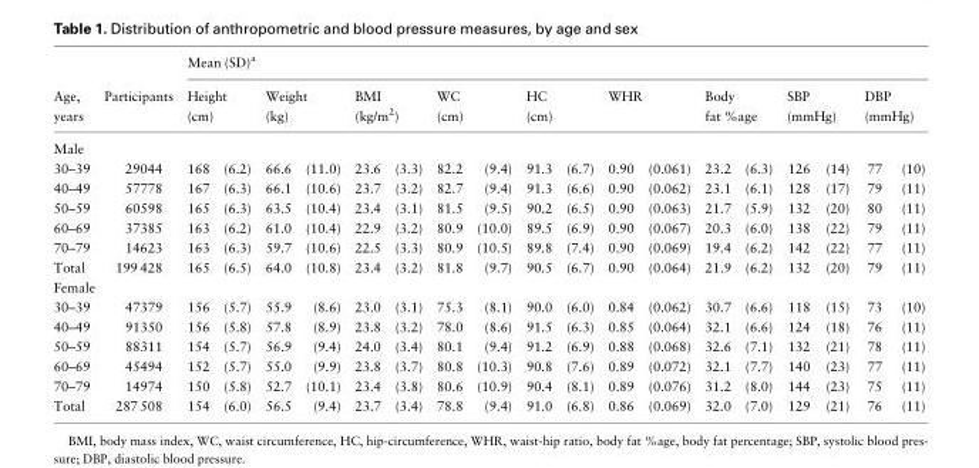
<table><thead><tr><td rowspan="2">Age, years</td><td rowspan="2">Participants</td><td colspan="18">Mean (SD)<sup>a</sup></td></tr><tr><td colspan="2">Height (cm)</td><td colspan="2">Weight (kg)</td><td colspan="2">BMI (kg/m<sup>2</sup>)</td><td colspan="2">WC (cm)</td><td colspan="2">HC (cm)</td><td colspan="2">WHR</td><td colspan="2">Body fat %age</td><td colspan="2">SBP (mmHg)</td><td colspan="2">DBP (mmHg)</td></tr><tr><td colspan="20">Male</td></tr><tr><td>30–39</td><td>29044</td><td>168</td><td>(6.2)</td><td>66.6</td><td>(11.0)</td><td>23.6</td><td>(3.3)</td><td>82.2</td><td>(9.4)</td><td>91.3</td><td>(6.7)</td><td>0.90</td><td>(0.061)</td><td>23.2</td><td>(6.3)</td><td>126</td><td>(14)</td><td>77</td><td>(10)</td></tr></thead><tbody><tr><td>40–49</td><td>57778</td><td>167</td><td>(6.3)</td><td>66.1</td><td>(10.6)</td><td>23.7</td><td>(3.2)</td><td>82.7</td><td>(9.4)</td><td>91.3</td><td>(6.6)</td><td>0.90</td><td>(0.062)</td><td>23.1</td><td>(6.1)</td><td>128</td><td>(17)</td><td>79</td><td>(11)</td></tr><tr><td>50–59</td><td>60598</td><td>165</td><td>(6.3)</td><td>63.5</td><td>(10.4)</td><td>23.4</td><td>(3.1)</td><td>81.5</td><td>(9.5)</td><td>90.2</td><td>(6.5)</td><td>0.90</td><td>(0.063)</td><td>21.7</td><td>(5.9)</td><td>132</td><td>(20)</td><td>80</td><td>(11)</td></tr><tr><td>60–69</td><td>37385</td><td>163</td><td>(6.2)</td><td>61.0</td><td>(10.4)</td><td>22.9</td><td>(3.2)</td><td>80.9</td><td>(10.0)</td><td>89.5</td><td>(6.9)</td><td>0.90</td><td>(0.067)</td><td>20.3</td><td>(6.0)</td><td>138</td><td>(22)</td><td>79</td><td>(11)</td></tr><tr><td>70–79</td><td>14623</td><td>163</td><td>(6.3)</td><td>59.7</td><td>(10.6)</td><td>22.5</td><td>(3.3)</td><td>80.9</td><td>(10.5)</td><td>89.8</td><td>(7.4)</td><td>0.90</td><td>(0.069)</td><td>19.4</td><td>(6.2)</td><td>142</td><td>(22)</td><td>77</td><td>(11)</td></tr><tr><td>Total</td><td>199 428</td><td>165</td><td>(6.5)</td><td>64.0</td><td>(10.8)</td><td>23.4</td><td>(3.2)</td><td>81.8</td><td>(9.7)</td><td>90.5</td><td>(6.7)</td><td>0.90</td><td>(0.064)</td><td>21.9</td><td>(6.2)</td><td>132</td><td>(20)</td><td>79</td><td>(11)</td></tr><tr><td colspan="20">Female</td></tr><tr><td>30–39</td><td>47379</td><td>156</td><td>(5.7)</td><td>55.9</td><td>(8.6)</td><td>23.0</td><td>(3.1)</td><td>75.3</td><td>(8.1)</td><td>90.0</td><td>(6.0)</td><td>0.84</td><td>(0.062)</td><td>30.7</td><td>(6.6)</td><td>118</td><td>(15)</td><td>73</td><td>(10)</td></tr><tr><td>40–49</td><td>91350</td><td>156</td><td>(5.8)</td><td>57.8</td><td>(8.9)</td><td>23.8</td><td>(3.2)</td><td>78.0</td><td>(8.6)</td><td>91.5</td><td>(6.3)</td><td>0.85</td><td>(0.064)</td><td>32.1</td><td>(6.6)</td><td>124</td><td>(18)</td><td>76</td><td>(11)</td></tr><tr><td>50–59</td><td>88311</td><td>154</td><td>(5.7)</td><td>56.9</td><td>(9.4)</td><td>24.0</td><td>(3.4)</td><td>80.1</td><td>(9.4)</td><td>91.2</td><td>(6.9)</td><td>0.88</td><td>(0.068)</td><td>32.6</td><td>(7.1)</td><td>132</td><td>(21)</td><td>78</td><td>(11)</td></tr><tr><td>60–69</td><td>45494</td><td>152</td><td>(5.7)</td><td>55.0</td><td>(9.9)</td><td>23.8</td><td>(3.7)</td><td>80.8</td><td>(10.3)</td><td>90.8</td><td>(7.6)</td><td>0.89</td><td>(0.072)</td><td>32.1</td><td>(7.7)</td><td>140</td><td>(23)</td><td>77</td><td>(11)</td></tr><tr><td>70–79</td><td>14974</td><td>150</td><td>(5.8)</td><td>52.7</td><td>(10.1)</td><td>23.4</td><td>(3.8)</td><td>80.6</td><td>(10.9)</td><td>90.4</td><td>(8.1)</td><td>0.89</td><td>(0.076)</td><td>31.2</td><td>(8.0)</td><td>144</td><td>(23)</td><td>75</td><td>(11)</td></tr><tr><td>Total</td><td>287 508</td><td>154</td><td>(6.0)</td><td>56.5</td><td>(9.4)</td><td>23.7</td><td>(3.4)</td><td>78.8</td><td>(9.4)</td><td>91.0</td><td>(6.8)</td><td>0.86</td><td>(0.069)</td><td>32.0</td><td>(7.0)</td><td>129</td><td>(21)</td><td>76</td><td>(11)</td></tr></tbody></table>